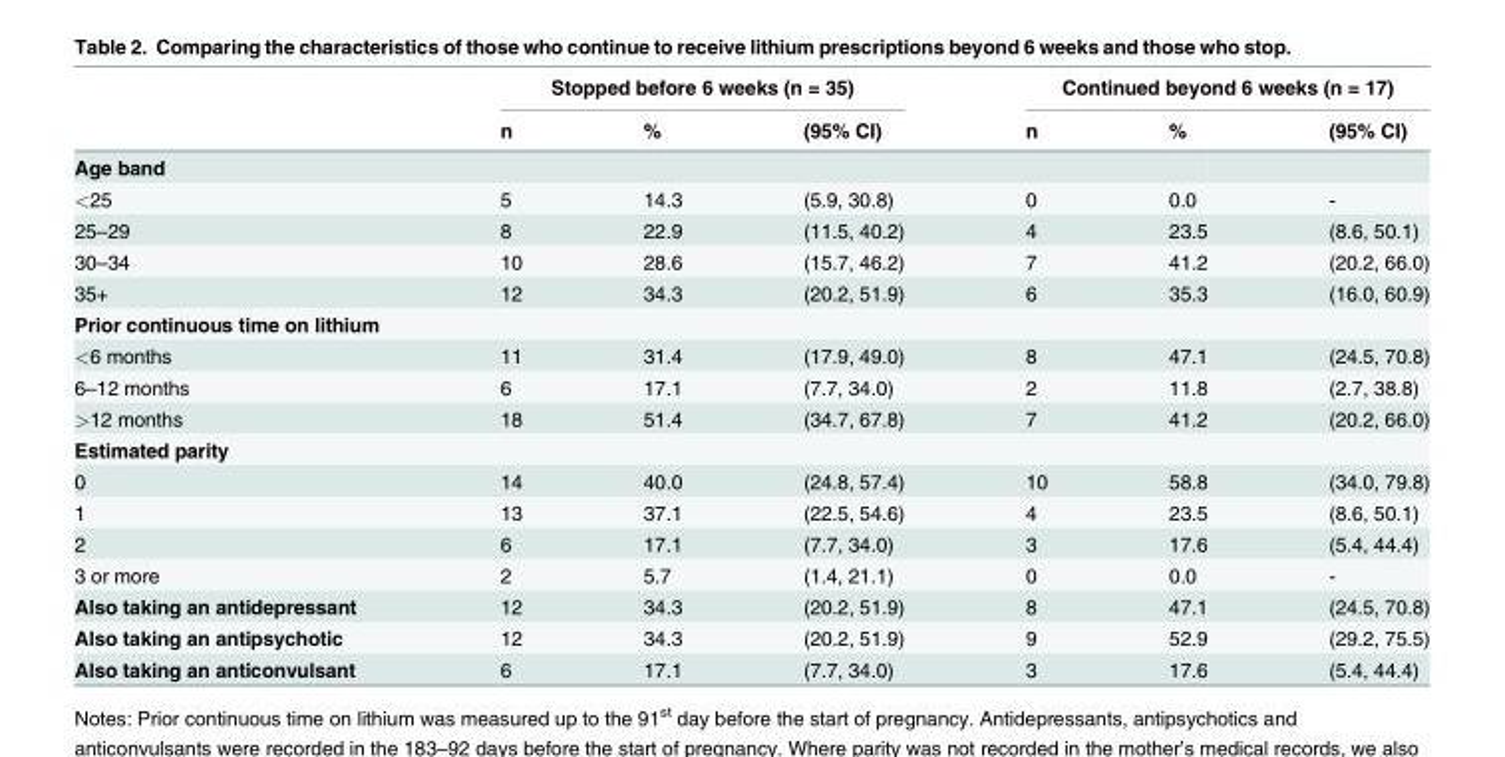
<table><thead><tr><td rowspan="2"></td><td colspan="3">Stopped before 6 weeks (n = 35)</td><td colspan="3">Continued beyond 6 weeks (n = 17)</td></tr><tr><td>n</td><td>%</td><td>(95% CI)</td><td>n</td><td>%</td><td>(95% CI)</td></tr></thead><tbody><tr><td colspan="7">Age band</td></tr><tr><td>&lt;25</td><td>5</td><td>14.3</td><td>(5.9, 30.8)</td><td>0</td><td>0.0</td><td>-</td></tr><tr><td>25–29</td><td>8</td><td>22.9</td><td>(11.5, 40.2)</td><td>4</td><td>23.5</td><td>(8.6, 50.1)</td></tr><tr><td>30–34</td><td>10</td><td>28.6</td><td>(15.7, 46.2)</td><td>7</td><td>41.2</td><td>(20.2, 66.0)</td></tr><tr><td>35+</td><td>12</td><td>34.3</td><td>(20.2, 51.9)</td><td>6</td><td>35.3</td><td>(16.0, 60.9)</td></tr><tr><td colspan="7">Prior continuous time on lithium</td></tr><tr><td>&lt;6 months</td><td>11</td><td>31.4</td><td>(17.9, 49.0)</td><td>8</td><td>47.1</td><td>(24.5, 70.8)</td></tr><tr><td>6–12 months</td><td>6</td><td>17.1</td><td>(7.7, 34.0)</td><td>2</td><td>11.8</td><td>(2.7, 38.8)</td></tr><tr><td>&gt;12 months</td><td>18</td><td>51.4</td><td>(34.7, 67.8)</td><td>7</td><td>41.2</td><td>(20.2, 66.0)</td></tr><tr><td colspan="7">Estimated parity</td></tr><tr><td>0</td><td>14</td><td>40.0</td><td>(24.8, 57.4)</td><td>10</td><td>58.8</td><td>(34.0, 79.8)</td></tr><tr><td>1</td><td>13</td><td>37.1</td><td>(22.5, 54.6)</td><td>4</td><td>23.5</td><td>(8.6, 50.1)</td></tr><tr><td>2</td><td>6</td><td>17.1</td><td>(7.7, 34.0)</td><td>3</td><td>17.6</td><td>(5.4, 44.4)</td></tr><tr><td>3 or more</td><td>2</td><td>5.7</td><td>(1.4, 21.1)</td><td>0</td><td>0.0</td><td>-</td></tr><tr><td>Also taking an antidepressant</td><td>12</td><td>34.3</td><td>(20.2, 51.9)</td><td>8</td><td>47.1</td><td>(24.5, 70.8)</td></tr><tr><td>Also taking an antipsychotic</td><td>12</td><td>34.3</td><td>(20.2, 51.9)</td><td>9</td><td>52.9</td><td>(29.2, 75.5)</td></tr><tr><td>Also taking an anticonvulsant</td><td>6</td><td>17.1</td><td>(7.7, 34.0)</td><td>3</td><td>17.6</td><td>(5.4, 44.4)</td></tr></tbody></table>